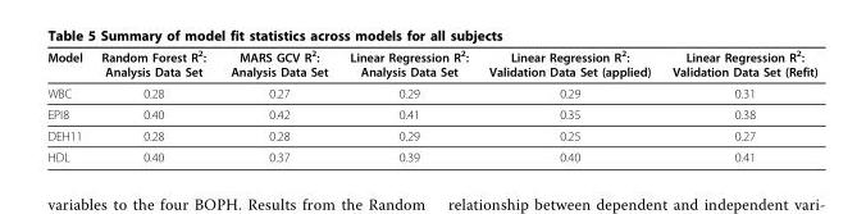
<table><thead><tr><td>Model</td><td>Random Forest R<sup>2</sup>: Analysis Data Set</td><td>MARS GCV R<sup>2</sup>: Analysis Data Set</td><td>Linear Regression R<sup>2</sup>: Analysis Data Set</td><td>Linear Regression R<sup>2</sup>: Validation Data Set (applied)</td><td>Linear Regression R<sup>2</sup>: Validation Data Set (Refit)</td></tr></thead><tbody><tr><td>WBC</td><td>0.28</td><td>0.27</td><td>0.29</td><td>0.29</td><td>0.31</td></tr><tr><td>EPI8</td><td>0.40</td><td>0.42</td><td>0.41</td><td>0.35</td><td>0.38</td></tr><tr><td>DEH11</td><td>0.28</td><td>0.28</td><td>0.29</td><td>0.25</td><td>0.27</td></tr><tr><td>HDL</td><td>0.40</td><td>0.37</td><td>0.39</td><td>0.40</td><td>0.41</td></tr></tbody></table>